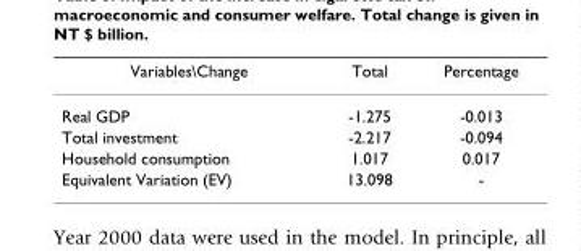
<table><thead><tr><td>Variables\Change</td><td>Total</td><td>Percentage</td></tr></thead><tbody><tr><td>Real GDP</td><td>-1.275</td><td>-0.013</td></tr><tr><td>Total investment</td><td>-2.217</td><td>-0.094</td></tr><tr><td>Household consumption</td><td>1.017</td><td>0.017</td></tr><tr><td>Equivalent Variation (EV)</td><td>13.098</td><td>-</td></tr></tbody></table>